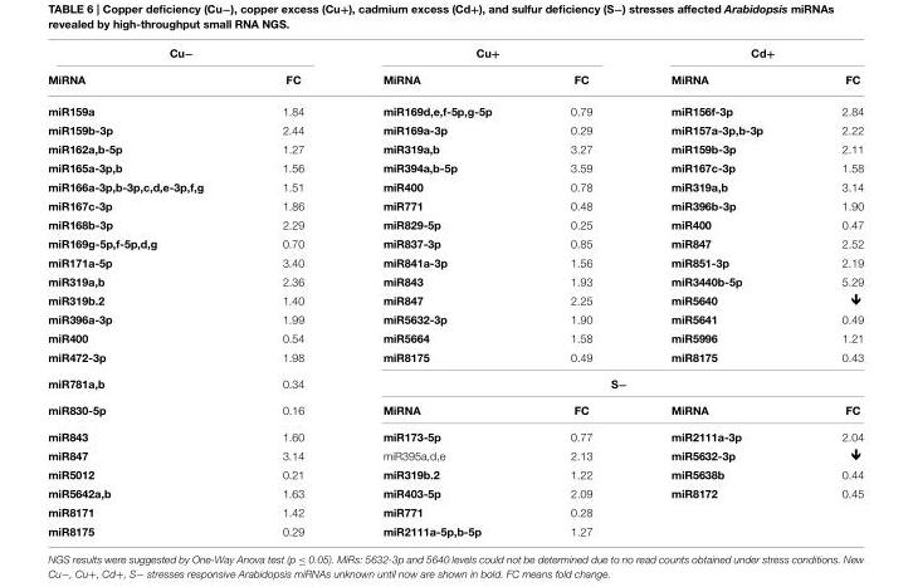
<table><thead><tr><td colspan="2">Cu−</td><td colspan="2">Cu+</td><td colspan="2">Cd+</td></tr><tr><td>MiRNA</td><td>FC</td><td>MiRNA</td><td>FC</td><td>MiRNA</td><td>FC</td></tr></thead><tbody><tr><td>miR159a</td><td>1.84</td><td>miR169d,e,f-5p,g-5p</td><td>0.79</td><td>miR156f-3p</td><td>2.84</td></tr><tr><td>miR159b-3p</td><td>2.44</td><td>miR169a-3p</td><td>0.29</td><td>miR157a-3p,b-3p</td><td>2.22</td></tr><tr><td>miR162a,b-5p</td><td>1.27</td><td>miR319a,b</td><td>3.27</td><td>miR159b-3p</td><td>2.11</td></tr><tr><td>miR165a-3p,b</td><td>1.56</td><td>miR394a,b-5p</td><td>3.59</td><td>miR167c-3p</td><td>1.58</td></tr><tr><td>miR166a-3p,b-3p,c,d,e-3p,f,g</td><td>1.51</td><td>miR400</td><td>0.78</td><td>miR319a,b</td><td>3.14</td></tr><tr><td>miR167c-3p</td><td>1.86</td><td>miR771</td><td>0.48</td><td>miR396b-3p</td><td>1.90</td></tr><tr><td>miR168b-3p</td><td>2.29</td><td>miR829-5p</td><td>0.25</td><td>miR400</td><td>0.47</td></tr><tr><td>miR169g-5p,f-5p,d,g</td><td>0.70</td><td>miR837-3p</td><td>0.85</td><td>miR847</td><td>2.52</td></tr><tr><td>miR171a-5p</td><td>3.40</td><td>miR841a-3p</td><td>1.56</td><td>miR851-3p</td><td>2.19</td></tr><tr><td>miR319a,b</td><td>2.36</td><td>miR843</td><td>1.93</td><td>miR3440b-5p</td><td>5.29</td></tr><tr><td>miR319b.2</td><td>1.40</td><td>miR847</td><td>2.25</td><td>miR5640</td><td></td></tr><tr><td>miR396a-3p</td><td>1.99</td><td>miR5632-3p</td><td>1.90</td><td>miR5641</td><td>0.49</td></tr><tr><td>miR400</td><td>0.54</td><td>miR5664</td><td>1.58</td><td>miR5996</td><td>1.21</td></tr><tr><td>miR472-3p</td><td>1.98</td><td>miR8175</td><td>0.49</td><td>miR8175</td><td>0.43</td></tr><tr><td>miR781a,b</td><td>0.34</td><td colspan="4">S−</td></tr><tr><td>miR830-5p</td><td>0.16</td><td>MiRNA</td><td>FC</td><td>MiRNA</td><td>FC</td></tr><tr><td>miR843</td><td>1.60</td><td>miR173-5p</td><td>0.77</td><td>miR2111a-3p</td><td>2.04</td></tr><tr><td>miR847</td><td>3.14</td><td>miR395a,d,e</td><td>2.13</td><td>miR5632-3p</td><td></td></tr><tr><td>miR5012</td><td>0.21</td><td>miR319b.2</td><td>1.22</td><td>miR5638b</td><td>0.44</td></tr><tr><td>miR5642a,b</td><td>1.63</td><td>miR403-5p</td><td>2.09</td><td>miR8172</td><td>0.45</td></tr><tr><td>miR8171</td><td>1.42</td><td>miR771</td><td>0.28</td><td></td><td></td></tr><tr><td>miR8175</td><td>0.29</td><td>miR2111a-5p,b-5p</td><td>1.27</td><td></td><td></td></tr></tbody></table>